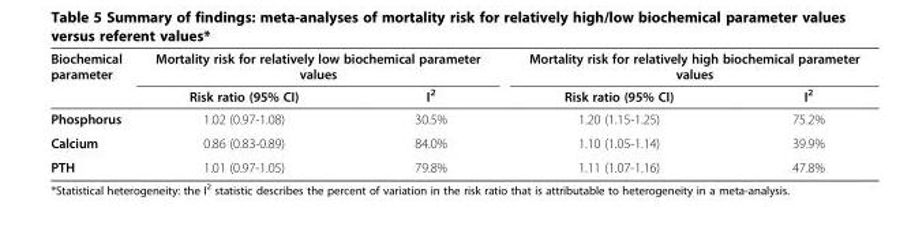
<table><thead><tr><td rowspan="2">Biochemical parameter</td><td colspan="2">Mortality risk for relatively low biochemical parameter values</td><td colspan="2">Mortality risk for relatively high biochemical parameter values</td></tr><tr><td>Risk ratio (95% CI)</td><td>I<sup>2</sup></td><td>Risk ratio (95% CI)</td><td>I<sup>2</sup></td></tr></thead><tbody><tr><td>Phosphorus</td><td>1.02 (0.97-1.08)</td><td>30.5%</td><td>1.20 (1.15-1.25)</td><td>75.2%</td></tr><tr><td>Calcium</td><td>0.86 (0.83-0.89)</td><td>84.0%</td><td>1.10 (1.05-1.14)</td><td>39.9%</td></tr><tr><td>PTH</td><td>1.01 (0.97-1.05)</td><td>79.8%</td><td>1.11 (1.07-1.16)</td><td>47.8%</td></tr></tbody></table>